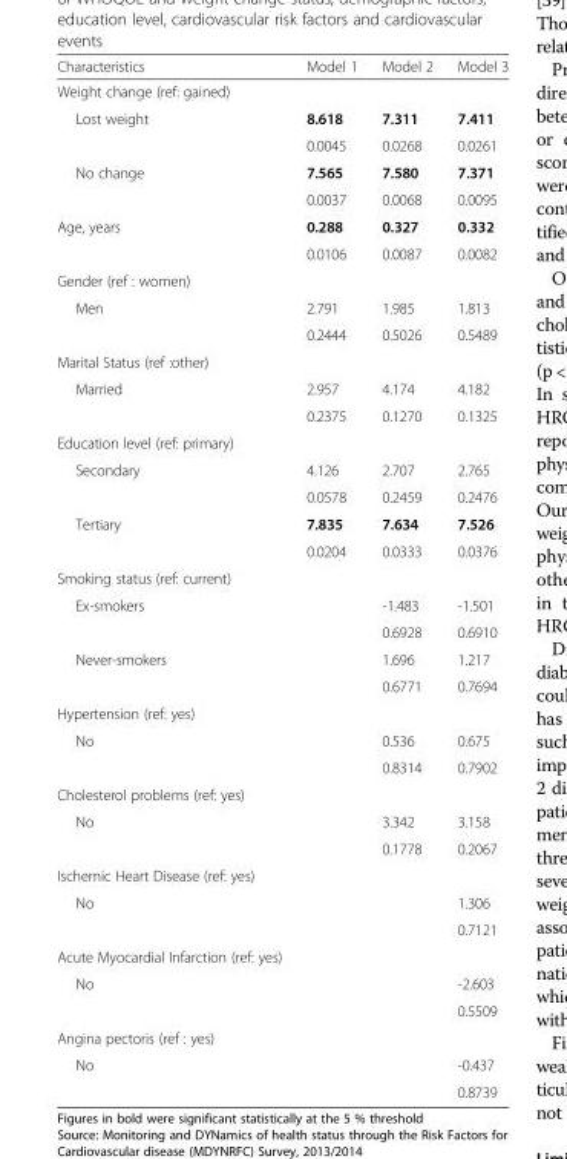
<table><thead><tr><td>Characteristics</td><td>Model 1</td><td>Model 2</td><td>Model 3</td></tr></thead><tbody><tr><td colspan="4">Weight change (ref: gained)</td></tr><tr><td rowspan="2">Lost weight</td><td>8.618</td><td>7.311</td><td>7.411</td></tr><tr><td>0.0045</td><td>0.0268</td><td>0.0261</td></tr><tr><td rowspan="2">No change</td><td>7.565</td><td>7.580</td><td>7.371</td></tr><tr><td>0.0037</td><td>0.0068</td><td>0.0095</td></tr><tr><td rowspan="2">Age, years</td><td>0.288</td><td>0.327</td><td>0.332</td></tr><tr><td>0.0106</td><td>0.0087</td><td>0.0082</td></tr><tr><td colspan="4">Gender (ref : women)</td></tr><tr><td rowspan="2">Men</td><td>2.791</td><td>1.985</td><td>1.813</td></tr><tr><td>0.2444</td><td>0.5026</td><td>0.5489</td></tr><tr><td colspan="4">Marital Status (ref :other)</td></tr><tr><td rowspan="2">Married</td><td>2.957</td><td>4.174</td><td>4.182</td></tr><tr><td>0.2375</td><td>0.1270</td><td>0.1325</td></tr><tr><td colspan="4">Education level (ref: primary)</td></tr><tr><td rowspan="2">Secondary</td><td>4.126</td><td>2.707</td><td>2.765</td></tr><tr><td>0.0578</td><td>0.2459</td><td>0.2476</td></tr><tr><td rowspan="2">Tertiary</td><td>7.835</td><td>7.634</td><td>7.526</td></tr><tr><td>0.0204</td><td>0.0333</td><td>0.0376</td></tr><tr><td colspan="4">Smoking status (ref: current)</td></tr><tr><td rowspan="2">Ex-smokers</td><td></td><td>-1.483</td><td>-1.501</td></tr><tr><td></td><td>0.6928</td><td>0.6910</td></tr><tr><td rowspan="2">Never-smokers</td><td></td><td>1.696</td><td>1.217</td></tr><tr><td></td><td>0.6771</td><td>0.7694</td></tr><tr><td colspan="4">Hypertension (ref: yes)</td></tr><tr><td rowspan="2">No</td><td></td><td>0.536</td><td>0.675</td></tr><tr><td></td><td>0.8314</td><td>0.7902</td></tr><tr><td colspan="4">Cholesterol problems (ref: yes)</td></tr><tr><td rowspan="2">No</td><td></td><td>3.342</td><td>3.158</td></tr><tr><td></td><td>0.1778</td><td>0.2067</td></tr><tr><td colspan="4">Ischemic Heart Disease (ref: yes)</td></tr><tr><td rowspan="2">No</td><td></td><td></td><td>1.306</td></tr><tr><td></td><td></td><td>0.7121</td></tr><tr><td colspan="4">Acute Myocardial Infarction (ref: yes)</td></tr><tr><td rowspan="2">No</td><td></td><td></td><td>-2.603</td></tr><tr><td></td><td></td><td>0.5509</td></tr><tr><td colspan="4">Angina pectoris (ref : yes)</td></tr><tr><td rowspan="2">No</td><td></td><td></td><td>-0.437</td></tr><tr><td></td><td></td><td>0.8739</td></tr></tbody></table>